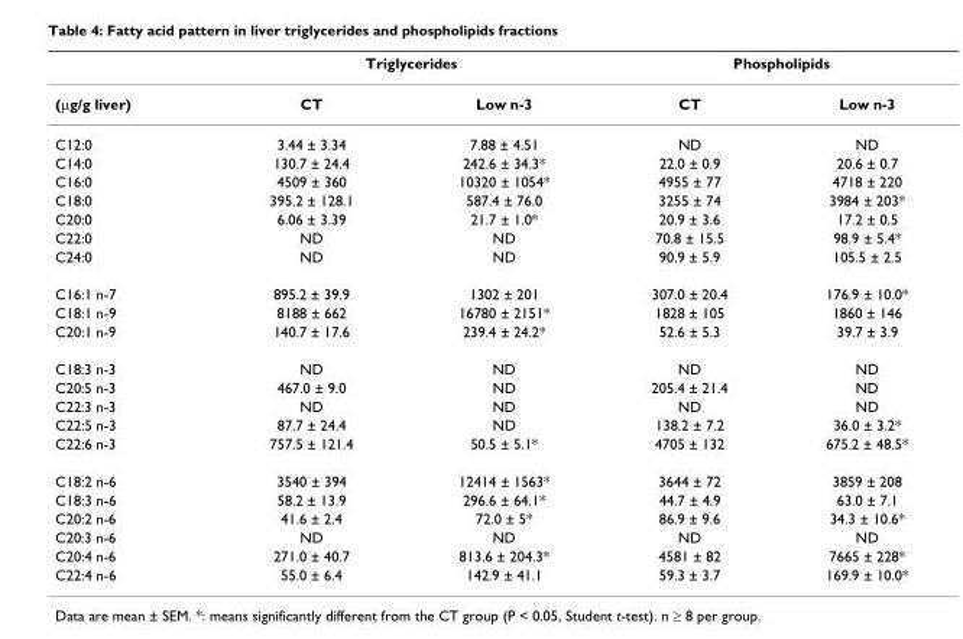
<table><thead><tr><td rowspan="2">(μg/g liver)</td><td colspan="2">Triglycerides</td><td colspan="2">Phospholipids</td></tr><tr><td>CT</td><td>Low n-3</td><td>CT</td><td>Low n-3</td></tr></thead><tbody><tr><td>C12:0</td><td>3.44 ± 3.34</td><td>7.88 ± 4.51</td><td>ND</td><td>ND</td></tr><tr><td>C14:0</td><td>130.7 ± 24.4</td><td>242.6 ± 34.3*</td><td>22.0 ± 0.9</td><td>20.6 ± 0.7</td></tr><tr><td>C16:0</td><td>4509 ± 360</td><td>10320 ± 1054*</td><td>4955 ± 77</td><td>4718 ± 220</td></tr><tr><td>C18:0</td><td>395.2 ± 128.1</td><td>587.4 ± 76.0</td><td>3255 ± 74</td><td>3984 ± 203*</td></tr><tr><td>C20:0</td><td>6.06 ± 3.39</td><td>21.7 ± 1.0*</td><td>20.9 ± 3.6</td><td>17.2 ± 0.5</td></tr><tr><td>C22:0</td><td>ND</td><td>ND</td><td>70.8 ± 15.5</td><td>98.9 ± 5.4*</td></tr><tr><td>C24:0</td><td>ND</td><td>ND</td><td>90.9 ± 5.9</td><td>105.5 ± 2.5</td></tr><tr><td>C16:1 n-7</td><td>895.2 ± 39.9</td><td>1302 ± 201</td><td>307.0 ± 20.4</td><td>176.9 ± 10.0*</td></tr><tr><td>C18:1 n-9</td><td>8188 ± 662</td><td>16780 ± 2151*</td><td>1828 ± 105</td><td>1860 ± 146</td></tr><tr><td>C20:1 n-9</td><td>140.7 ± 17.6</td><td>239.4 ± 24.2*</td><td>52.6 ± 5.3</td><td>39.7 ± 3.9</td></tr><tr><td>C18:3 n-3</td><td>ND</td><td>ND</td><td>ND</td><td>ND</td></tr><tr><td>C20:5 n-3</td><td>467.0 ± 9.0</td><td>ND</td><td>205.4 ± 21.4</td><td>ND</td></tr><tr><td>C22:3 n-3</td><td>ND</td><td>ND</td><td>ND</td><td>ND</td></tr><tr><td>C22:5 n-3</td><td>87.7 ± 24.4</td><td>ND</td><td>138.2 ± 7.2</td><td>36.0 ± 3.2*</td></tr><tr><td>C22:6 n-3</td><td>757.5 ± 121.4</td><td>50.5 ± 5.1*</td><td>4705 ± 132</td><td>675.2 ± 48.5*</td></tr><tr><td>C18:2 n-6</td><td>3540 ± 394</td><td>12414 ± 1563*</td><td>3644 ± 72</td><td>3859 ± 208</td></tr><tr><td>C18:3 n-6</td><td>58.2 ± 13.9</td><td>296.6 ± 64.1*</td><td>44.7 ± 4.9</td><td>63.0 ± 7.1</td></tr><tr><td>C20:2 n-6</td><td>41.6 ± 2.4</td><td>72.0 ± 5*</td><td>86.9 ± 9.6</td><td>34.3 ± 10.6*</td></tr><tr><td>C20:3 n-6</td><td>ND</td><td>ND</td><td>ND</td><td>ND</td></tr><tr><td>C20:4 n-6</td><td>271.0 ± 40.7</td><td>813.6 ± 204.3*</td><td>4581 ± 82</td><td>7665 ± 228*</td></tr><tr><td>C22:4 n-6</td><td>55.0 ± 6.4</td><td>142.9 ± 41.1</td><td>59.3 ± 3.7</td><td>169.9 ± 10.0*</td></tr></tbody></table>